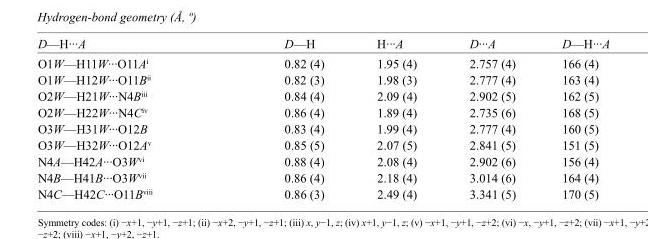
<table><tbody><tr><td>D—H···A</td><td>D—H</td><td>H···A</td><td>D···A</td><td>D—H···A</td></tr><tr><td>O1W—H11W···O11A<sup>i</sup></td><td>0.82 (4)</td><td>1.95 (4)</td><td>2.757 (4)</td><td>166 (4)</td></tr><tr><td>O1W—H12W···O11B<sup>ii</sup></td><td>0.82 (3)</td><td>1.98 (3)</td><td>2.777 (4)</td><td>163 (4)</td></tr><tr><td>O2W—H21W···N4B<sup>iii</sup></td><td>0.84 (4)</td><td>2.09 (4)</td><td>2.902 (5)</td><td>162 (5)</td></tr><tr><td>O2W—H22W···N4C<sup>iv</sup></td><td>0.86 (4)</td><td>1.89 (4)</td><td>2.735 (6)</td><td>168 (5)</td></tr><tr><td>O3W—H31W···O12B</td><td>0.83 (4)</td><td>1.99 (4)</td><td>2.777 (4)</td><td>160 (5)</td></tr><tr><td>O3W—H32W···O12A<sup>v</sup></td><td>0.85 (5)</td><td>2.07 (5)</td><td>2.841 (5)</td><td>151 (5)</td></tr><tr><td>N4A—H42A···O3W<sup>vi</sup></td><td>0.88 (4)</td><td>2.08 (4)</td><td>2.902 (6)</td><td>156 (4)</td></tr><tr><td>N4B—H41B···O3W<sup>vii</sup></td><td>0.86 (4)</td><td>2.18 (4)</td><td>3.014 (6)</td><td>164 (4)</td></tr><tr><td>N4C—H42C···O11B<sup>viii</sup></td><td>0.86 (3)</td><td>2.49 (4)</td><td>3.341 (5)</td><td>170 (5)</td></tr></tbody></table>